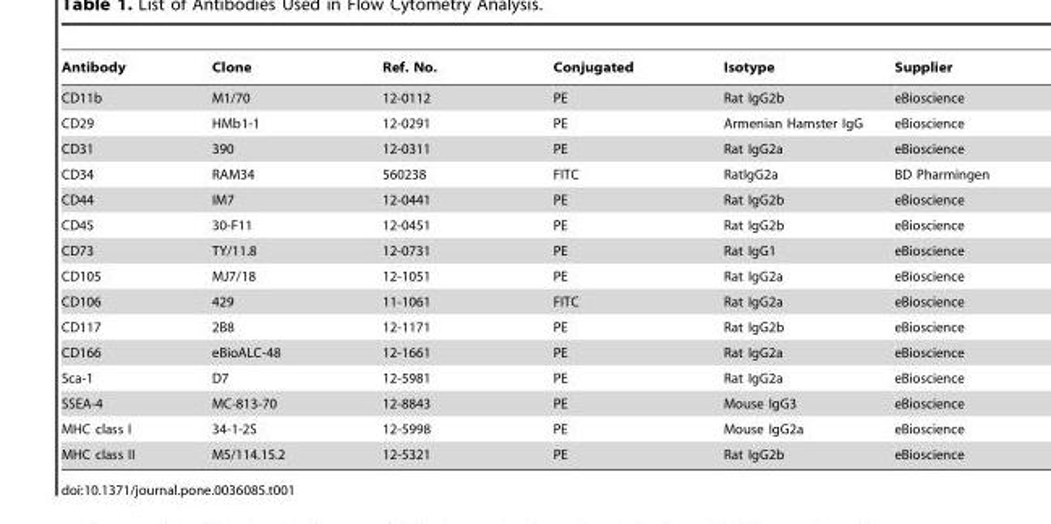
<table><thead><tr><td>Antibody</td><td>Clone</td><td>Ref. No.</td><td>Conjugated</td><td>Isotype</td><td>Supplier</td></tr></thead><tbody><tr><td>CD11b</td><td>M1/70</td><td>12-0112</td><td>PE</td><td>Rat IgG2b</td><td>eBioscience</td></tr><tr><td>CD29</td><td>HMb1-1</td><td>12-0291</td><td>PE</td><td>Armenian Hamster IgG</td><td>eBioscience</td></tr><tr><td>CD31</td><td>390</td><td>12-0311</td><td>PE</td><td>Rat IgG2a</td><td>eBioscience</td></tr><tr><td>CD34</td><td>RAM34</td><td>560238</td><td>FITC</td><td>RatIgG2a</td><td>BD Pharmingen</td></tr><tr><td>CD44</td><td>IM7</td><td>12-0441</td><td>PE</td><td>Rat IgG2b</td><td>eBioscience</td></tr><tr><td>CD45</td><td>30-F11</td><td>12-0451</td><td>PE</td><td>Rat IgG2b</td><td>eBioscience</td></tr><tr><td>CD73</td><td>TY/11.8</td><td>12-0731</td><td>PE</td><td>Rat IgG1</td><td>eBioscience</td></tr><tr><td>CD105</td><td>MJ7/18</td><td>12-1051</td><td>PE</td><td>Rat IgG2a</td><td>eBioscience</td></tr><tr><td>CD106</td><td>429</td><td>11-1061</td><td>FITC</td><td>Rat IgG2a</td><td>eBioscience</td></tr><tr><td>CD117</td><td>2B8</td><td>12-1171</td><td>PE</td><td>Rat IgG2b</td><td>eBioscience</td></tr><tr><td>CD166</td><td>eBioALC-48</td><td>12-1661</td><td>PE</td><td>Rat IgG2a</td><td>eBioscience</td></tr><tr><td>Sca-1</td><td>D7</td><td>12-5981</td><td>PE</td><td>Rat IgG2a</td><td>eBioscience</td></tr><tr><td>SSEA-4</td><td>MC-813-70</td><td>12-8843</td><td>PE</td><td>Mouse IgG3</td><td>eBioscience</td></tr><tr><td>MHC class I</td><td>34-1-2S</td><td>12-5998</td><td>PE</td><td>Mouse IgG2a</td><td>eBioscience</td></tr><tr><td>MHC class II</td><td>M5/114.15.2</td><td>12-5321</td><td>PE</td><td>Rat IgG2b</td><td>eBioscience</td></tr></tbody></table>